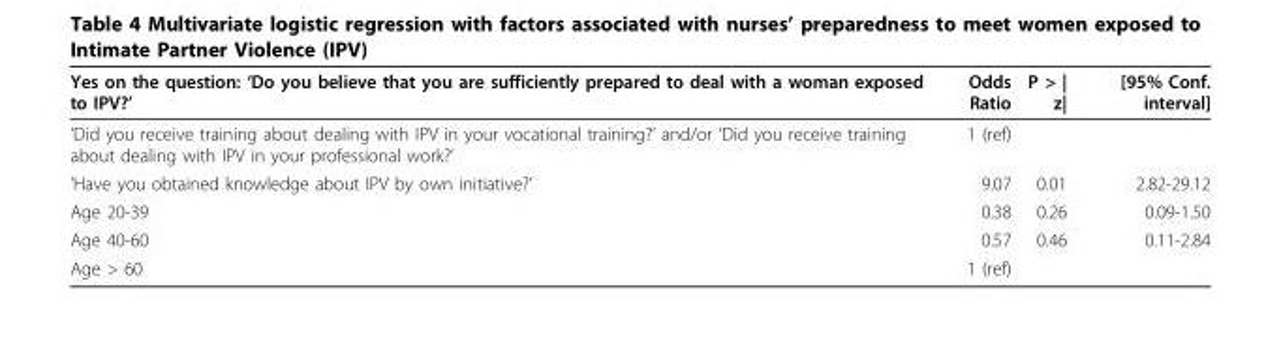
<table><thead><tr><td>Yes on the question: ‘Do you believe that you are sufficiently prepared to deal with a woman exposed to IPV?’</td><td>Odds Ratio</td><td>P &gt; | z|</td><td>[95% Conf. interval]</td></tr></thead><tbody><tr><td>’Did you receive training about dealing with IPV in your vocational training?’ and/or ‘Did you receive training about dealing with IPV in your professional work?’</td><td>1 (ref)</td><td></td><td></td></tr><tr><td>’Have you obtained knowledge about IPV by own initiative?’</td><td>9.07</td><td>0.01</td><td>2.82-29.12</td></tr><tr><td>Age 20-39</td><td>0.38</td><td>0.26</td><td>0.09-1.50</td></tr><tr><td>Age 40-60</td><td>0.57</td><td>0.46</td><td>0.11-2.84</td></tr><tr><td>Age &gt; 60</td><td>1 (ref)</td><td></td><td></td></tr></tbody></table>